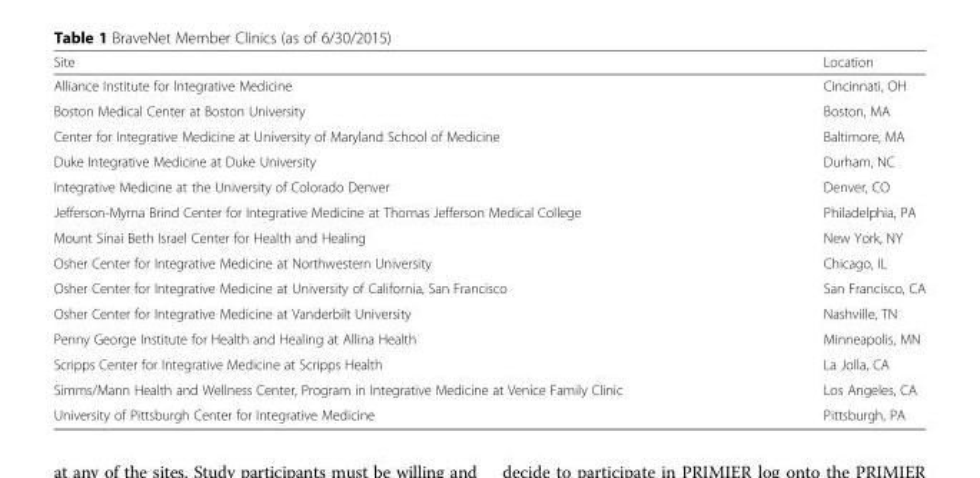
<table><thead><tr><td>Site</td><td>Location</td></tr></thead><tbody><tr><td>Alliance Institute for Integrative Medicine</td><td>Cincinnati, OH</td></tr><tr><td>Boston Medical Center at Boston University</td><td>Boston, MA</td></tr><tr><td>Center for Integrative Medicine at University of Maryland School of Medicine</td><td>Baltimore, MA</td></tr><tr><td>Duke Integrative Medicine at Duke University</td><td>Durham, NC</td></tr><tr><td>Integrative Medicine at the University of Colorado Denver</td><td>Denver, CO</td></tr><tr><td>Jefferson-Myrna Brind Center for Integrative Medicine at Thomas Jefferson Medical College</td><td>Philadelphia, PA</td></tr><tr><td>Mount Sinai Beth Israel Center for Health and Healing</td><td>New York, NY</td></tr><tr><td>Osher Center for Integrative Medicine at Northwestern University</td><td>Chicago, IL</td></tr><tr><td>Osher Center for Integrative Medicine at University of California, San Francisco</td><td>San Francisco, CA</td></tr><tr><td>Osher Center for Integrative Medicine at Vanderbilt University</td><td>Nashville, TN</td></tr><tr><td>Penny George Institute for Health and Healing at Allina Health</td><td>Minneapolis, MN</td></tr><tr><td>Scripps Center for Integrative Medicine at Scripps Health</td><td>La Jolla, CA</td></tr><tr><td>Simms/Mann Health and Wellness Center, Program in Integrative Medicine at Venice Family Clinic</td><td>Los Angeles, CA</td></tr><tr><td>University of Pittsburgh Center for Integrative Medicine</td><td>Pittsburgh, PA</td></tr></tbody></table>